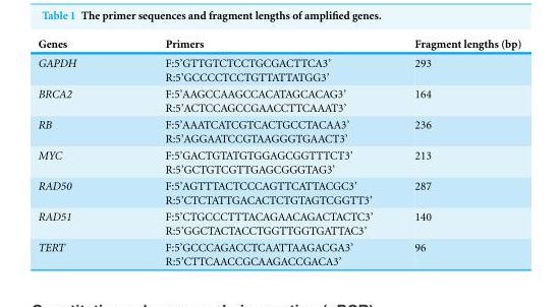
<table><thead><tr><td>Genes</td><td>Primers</td><td>Fragment lengths (bp)</td></tr></thead><tbody><tr><td>GAPDH</td><td>F:5’GTTGTCTCCTGCGACTTCA3’ R:5’GCCCCTCCTGTTATTATGG3’</td><td>293</td></tr><tr><td>BRCA2</td><td>F:5’AAGCCAAGCCACATAGCACAG3’ R:5’ACTCCAGCCGAACCTTCAAAT3’</td><td>164</td></tr><tr><td>RB</td><td>F:5’AAATCATCGTCACTGCCTACAA3’ R:5’AGGAATCCGTAAGGGTGAACT3’</td><td>236</td></tr><tr><td>MYC</td><td>F:5’GACTGTATGTGGAGCGGTTTCT3’ R:5’GCTGTCGTTGAGCGGGTAG3’</td><td>213</td></tr><tr><td>RAD50</td><td>F:5’AGTTTACTCCCAGTTCATTACGC3’ R:5’CTCTATTGACACTCTGTAGTCGGTT3’</td><td>287</td></tr><tr><td>RAD51</td><td>F:5’CTGCCCTTTACAGAACAGACTACTC3’ R:5’GGCTACTACCTGGTTGGTGATTAC3’</td><td>140</td></tr><tr><td>TERT</td><td>F:5’GCCCAGACCTCAATTAAGACGA3’ R:5’CTTCAACCGCAAGACCGACA3’</td><td>96</td></tr></tbody></table>